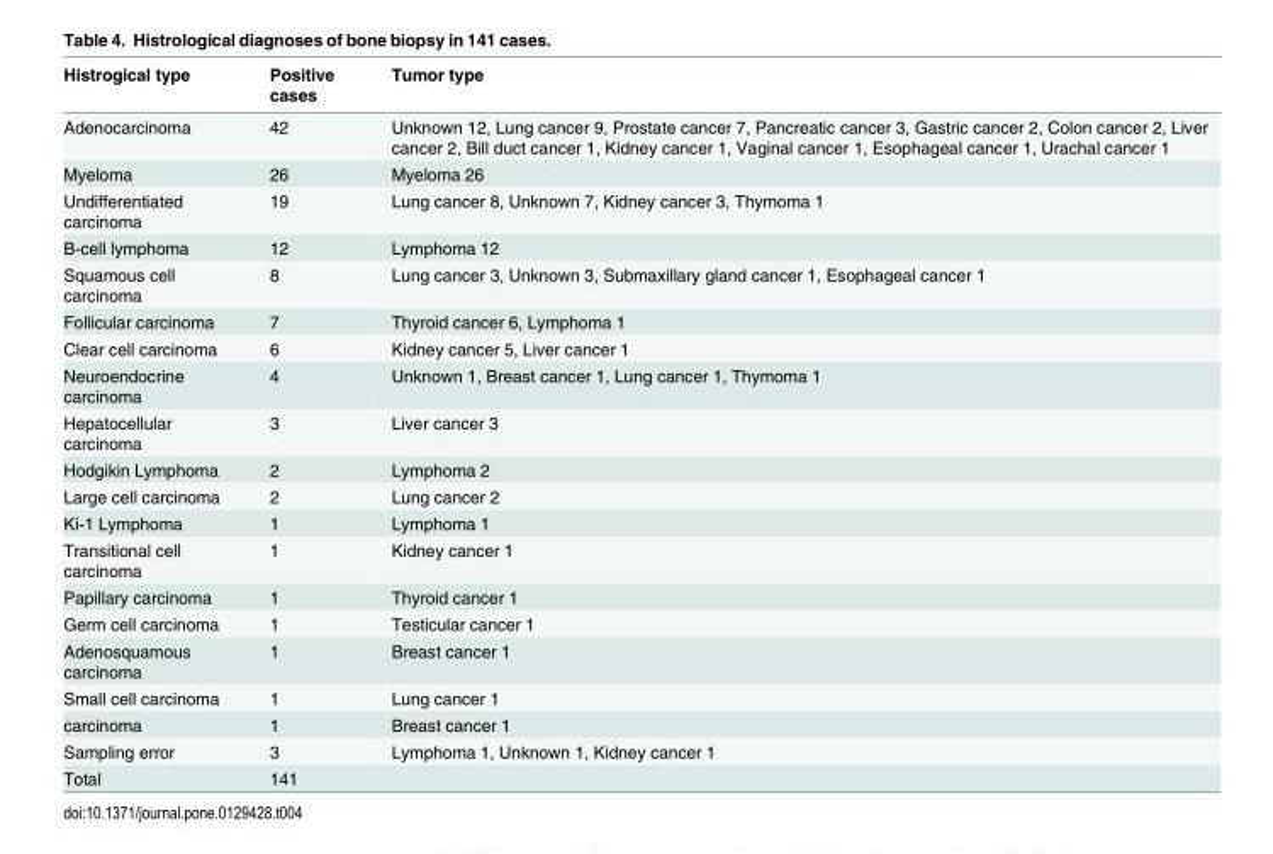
<table><thead><tr><td>Histrogical type</td><td>Positive cases</td><td>Tumor type</td></tr></thead><tbody><tr><td>Adenocarcinoma</td><td>42</td><td>Unknown 12, Lung cancer 9, Prostate cancer 7, Pancreatic cancer 3, Gastric cancer 2, Colon cancer 2, Liver cancer 2, Bill duct cancer 1, Kidney cancer 1, Vaginal cancer 1, Esophageal cancer 1, Urachal cancer 1</td></tr><tr><td>Myeloma</td><td>26</td><td>Myeloma 26</td></tr><tr><td>Undifferentiated carcinoma</td><td>19</td><td>Lung cancer 8, Unknown 7, Kidney cancer 3, Thymoma 1</td></tr><tr><td>B-cell lymphoma</td><td>12</td><td>Lymphoma 12</td></tr><tr><td>Squamous cell carcinoma</td><td>8</td><td>Lung cancer 3, Unknown 3, Submaxillary gland cancer 1, Esophageal cancer 1</td></tr><tr><td>Follicular carcinoma</td><td>7</td><td>Thyroid cancer 6, Lymphoma 1</td></tr><tr><td>Clear cell carcinoma</td><td>6</td><td>Kidney cancer 5, Liver cancer 1</td></tr><tr><td>Neuroendocrine carcinoma</td><td>4</td><td>Unknown 1, Breast cancer 1, Lung cancer 1, Thymoma 1</td></tr><tr><td>Hepatocellular carcinoma</td><td>3</td><td>Liver cancer 3</td></tr><tr><td>Hodgikin Lymphoma</td><td>2</td><td>Lymphoma 2</td></tr><tr><td>Large cell carcinoma</td><td>2</td><td>Lung cancer 2</td></tr><tr><td>Ki-1 Lymphoma</td><td>1</td><td>Lymphoma 1</td></tr><tr><td>Transitional cell carcinoma</td><td>1</td><td>Kidney cancer 1</td></tr><tr><td>Papillary carcinoma</td><td>1</td><td>Thyroid cancer 1</td></tr><tr><td>Germ cell carcinoma</td><td>1</td><td>Testicular cancer 1</td></tr><tr><td>Adenosquamous carcinoma</td><td>1</td><td>Breast cancer 1</td></tr><tr><td>Small cell carcinoma</td><td>1</td><td>Lung cancer 1</td></tr><tr><td>carcinoma</td><td>1</td><td>Breast cancer 1</td></tr><tr><td>Sampling error</td><td>3</td><td>Lymphoma 1, Unknown 1, Kidney cancer 1</td></tr><tr><td>Total</td><td>141</td><td></td></tr></tbody></table>